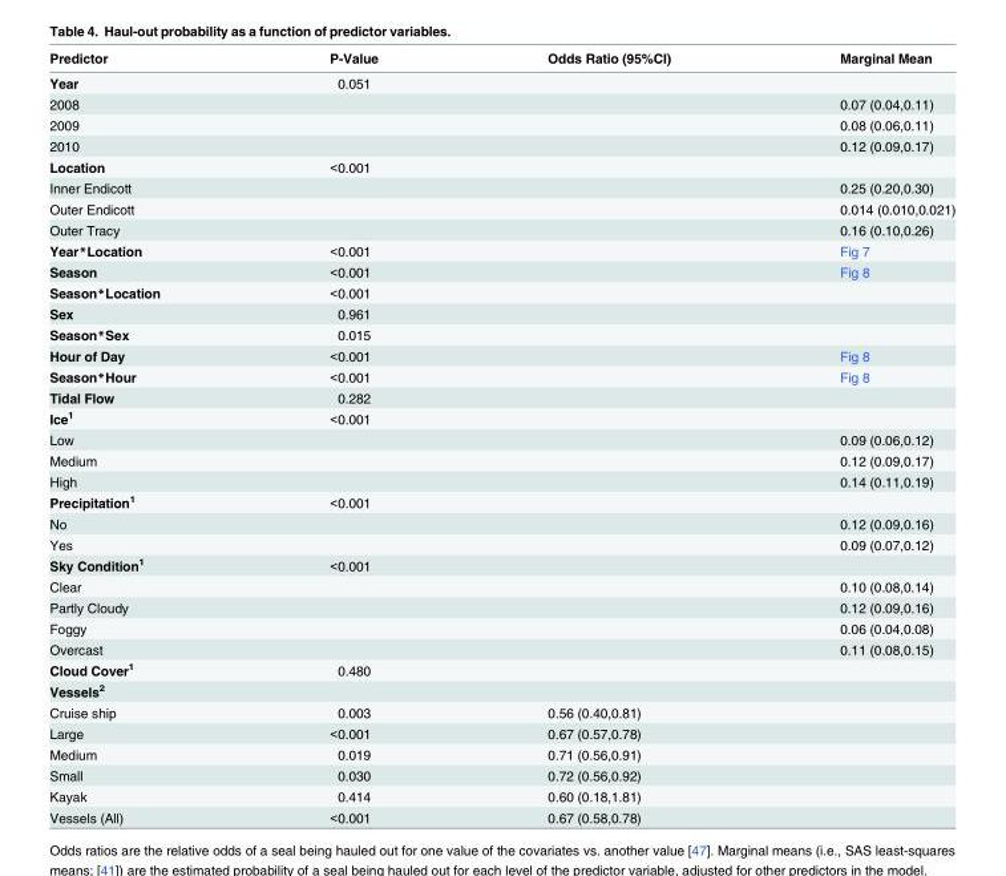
<table><thead><tr><td>Predictor</td><td>P-Value</td><td>Odds Ratio (95%CI)</td><td>Marginal Mean</td></tr></thead><tbody><tr><td>Year</td><td>0.051</td><td></td><td></td></tr><tr><td>2008</td><td></td><td></td><td>0.07 (0.04,0.11)</td></tr><tr><td>2009</td><td></td><td></td><td>0.08 (0.06,0.11)</td></tr><tr><td>2010</td><td></td><td></td><td>0.12 (0.09,0.17)</td></tr><tr><td>Location</td><td>&lt;0.001</td><td></td><td></td></tr><tr><td>Inner Endicott</td><td></td><td></td><td>0.25 (0.20,0.30)</td></tr><tr><td>Outer Endicott</td><td></td><td></td><td>0.014 (0.010,0.021)</td></tr><tr><td>Outer Tracy</td><td></td><td></td><td>0.16 (0.10,0.26)</td></tr><tr><td>Year*Location</td><td>&lt;0.001</td><td></td><td>Fig 7</td></tr><tr><td>Season</td><td>&lt;0.001</td><td></td><td>Fig 8</td></tr><tr><td>Season*Location</td><td>&lt;0.001</td><td></td><td></td></tr><tr><td>Sex</td><td>0.961</td><td></td><td></td></tr><tr><td>Season*Sex</td><td>0.015</td><td></td><td></td></tr><tr><td>Hour of Day</td><td>&lt;0.001</td><td></td><td>Fig 8</td></tr><tr><td>Season*Hour</td><td>&lt;0.001</td><td></td><td>Fig 8</td></tr><tr><td>Tidal Flow</td><td>0.282</td><td></td><td></td></tr><tr><td>Ice<sup>1</sup></td><td>&lt;0.001</td><td></td><td></td></tr><tr><td>Low</td><td></td><td></td><td>0.09 (0.06,0.12)</td></tr><tr><td>Medium</td><td></td><td></td><td>0.12 (0.09,0.17)</td></tr><tr><td>High</td><td></td><td></td><td>0.14 (0.11,0.19)</td></tr><tr><td>Precipitation<sup>1</sup></td><td>&lt;0.001</td><td></td><td></td></tr><tr><td>No</td><td></td><td></td><td>0.12 (0.09,0.16)</td></tr><tr><td>Yes</td><td></td><td></td><td>0.09 (0.07,0.12)</td></tr><tr><td>Sky Condition<sup>1</sup></td><td>&lt;0.001</td><td></td><td></td></tr><tr><td>Clear</td><td></td><td></td><td>0.10 (0.08,0.14)</td></tr><tr><td>Partly Cloudy</td><td></td><td></td><td>0.12 (0.09,0.16)</td></tr><tr><td>Foggy</td><td></td><td></td><td>0.06 (0.04,0.08)</td></tr><tr><td>Overcast</td><td></td><td></td><td>0.11 (0.08,0.15)</td></tr><tr><td>Cloud Cover<sup>1</sup></td><td>0.480</td><td></td><td></td></tr><tr><td colspan="4">Vessels<sup>2</sup></td></tr><tr><td>Cruise ship</td><td>0.003</td><td>0.56 (0.40,0.81)</td><td></td></tr><tr><td>Large</td><td>&lt;0.001</td><td>0.67 (0.57,0.78)</td><td></td></tr><tr><td>Medium</td><td>0.019</td><td>0.71 (0.56,0.91)</td><td></td></tr><tr><td>Small</td><td>0.030</td><td>0.72 (0.56,0.92)</td><td></td></tr><tr><td>Kayak</td><td>0.414</td><td>0.60 (0.18,1.81)</td><td></td></tr><tr><td>Vessels (All)</td><td>&lt;0.001</td><td>0.67 (0.58,0.78)</td><td></td></tr></tbody></table>